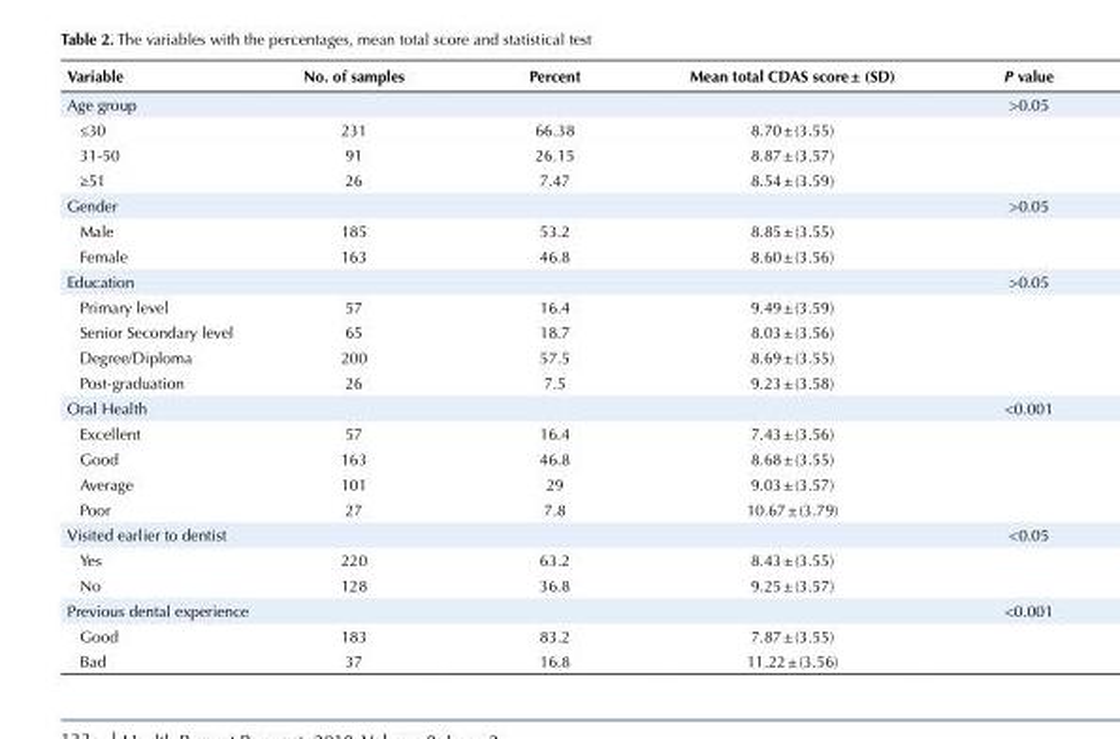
<table><tbody><tr><td>Variable</td><td>No. of samples</td><td>Percent</td><td>Mean total CDAS score ± (SD)</td><td>P value</td></tr><tr><td>Age group</td><td></td><td></td><td></td><td>&gt;0.05</td></tr><tr><td>≤30</td><td>231</td><td>66.38</td><td>8.70 ± (3.55)</td><td></td></tr><tr><td>31-50</td><td>91</td><td>26.15</td><td>8.87 ± (3.57)</td><td></td></tr><tr><td>≥51</td><td>26</td><td>7.47</td><td>8.54 ± (3.59)</td><td></td></tr><tr><td colspan="4">Gender</td><td>&gt;0.05</td></tr><tr><td>Male</td><td>185</td><td>53.2</td><td>8.85 ± (3.55)</td><td></td></tr><tr><td>Female</td><td>163</td><td>46.8</td><td>8.60 ± (3.56)</td><td></td></tr><tr><td colspan="4">Education</td><td>&gt;0.05</td></tr><tr><td>Primary level</td><td>57</td><td>16.4</td><td>9.49 ± (3.59)</td><td></td></tr><tr><td>Senior Secondary level</td><td>65</td><td>18.7</td><td>8.03 ± (3.56)</td><td></td></tr><tr><td>Degree/Diploma</td><td>200</td><td>57.5</td><td>8.69 ± (3.55)</td><td></td></tr><tr><td>Post-graduation</td><td>26</td><td>7.5</td><td>9.23 ± (3.58)</td><td></td></tr><tr><td colspan="4">Oral Health</td><td>&lt;0.001</td></tr><tr><td>Excellent</td><td>57</td><td>16.4</td><td>7.43 ± (3.56)</td><td></td></tr><tr><td>Good</td><td>163</td><td>46.8</td><td>8.68 ± (3.55)</td><td></td></tr><tr><td>Average</td><td>101</td><td>29</td><td>9.03 ± (3.57)</td><td></td></tr><tr><td>Poor</td><td>27</td><td>7.8</td><td>10.67 ± (3.79)</td><td></td></tr><tr><td colspan="4">Visited earlier to dentist</td><td>&lt;0.05</td></tr><tr><td>Yes</td><td>220</td><td>63.2</td><td>8.43 ± (3.55)</td><td></td></tr><tr><td>No</td><td>128</td><td>36.8</td><td>9.25 ± (3.57)</td><td></td></tr><tr><td colspan="4">Previous dental experience</td><td>&lt;0.001</td></tr><tr><td>Good</td><td>183</td><td>83.2</td><td>7.87 ± (3.55)</td><td></td></tr><tr><td>Bad</td><td>37</td><td>16.8</td><td>11.22 ± (3.56)</td><td></td></tr></tbody></table>